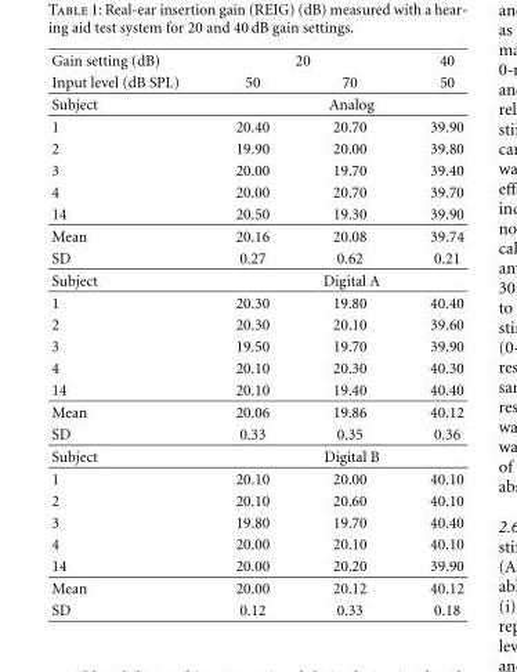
<table><thead><tr><td rowspan="2">Gain setting (dB) Input level (dB SPL)</td><td colspan="2">20</td><td rowspan="2">40 50</td></tr><tr><td>50</td><td>70</td></tr></thead><tbody><tr><td>Subject</td><td colspan="3">Analog</td></tr><tr><td>1</td><td>20.40</td><td>20.70</td><td>39.90</td></tr><tr><td>2</td><td>19.90</td><td>20.00</td><td>39.80</td></tr><tr><td>3</td><td>20.00</td><td>19.70</td><td>39.40</td></tr><tr><td>4</td><td>20.00</td><td>20.70</td><td>39.70</td></tr><tr><td>14</td><td>20.50</td><td>19.30</td><td>39.90</td></tr><tr><td>Mean</td><td>20.16</td><td>20.08</td><td>39.74</td></tr><tr><td>SD</td><td>0.27</td><td>0.62</td><td>0.21</td></tr><tr><td>Subject</td><td colspan="3">Digital A</td></tr><tr><td>1</td><td>20.30</td><td>19.80</td><td>40.40</td></tr><tr><td>2</td><td>20.30</td><td>20.10</td><td>39.60</td></tr><tr><td>3</td><td>19.50</td><td>19.70</td><td>39.90</td></tr><tr><td>4</td><td>20.10</td><td>20.30</td><td>40.30</td></tr><tr><td>14</td><td>20.10</td><td>19.40</td><td>40.40</td></tr><tr><td>Mean</td><td>20.06</td><td>19.86</td><td>40.12</td></tr><tr><td>SD</td><td>0.33</td><td>0.35</td><td>0.36</td></tr><tr><td>Subject</td><td colspan="3">Digital B</td></tr><tr><td>1</td><td>20.10</td><td>20.00</td><td>40.10</td></tr><tr><td>2</td><td>20.10</td><td>20.60</td><td>40.10</td></tr><tr><td>3</td><td>19.80</td><td>19.70</td><td>40.40</td></tr><tr><td>4</td><td>20.00</td><td>20.10</td><td>40.10</td></tr><tr><td>14</td><td>20.00</td><td>20.20</td><td>39.90</td></tr><tr><td>Mean</td><td>20.00</td><td>20.12</td><td>40.12</td></tr><tr><td>SD</td><td>0.12</td><td>0.33</td><td>0.18</td></tr></tbody></table>